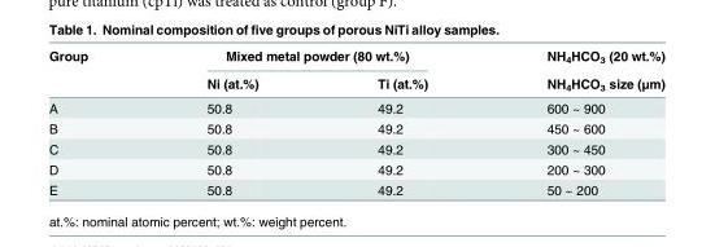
<table><thead><tr><td rowspan="2">Group</td><td colspan="2">Mixed metal powder (80 wt.%)</td><td rowspan="2">NH<sub>4</sub>HCO<sub>3</sub> (20 wt.%) NH<sub>4</sub>HCO<sub>3</sub> size (μm)</td></tr><tr><td>Ni (at.%)</td><td>Ti (at.%)</td></tr></thead><tbody><tr><td>A</td><td>50.8</td><td>49.2</td><td>600 ~ 900</td></tr><tr><td>B</td><td>50.8</td><td>49.2</td><td>450 ~ 600</td></tr><tr><td>C</td><td>50.8</td><td>49.2</td><td>300 ~ 450</td></tr><tr><td>D</td><td>50.8</td><td>49.2</td><td>200 ~ 300</td></tr><tr><td>E</td><td>50.8</td><td>49.2</td><td>50 ~ 200</td></tr></tbody></table>